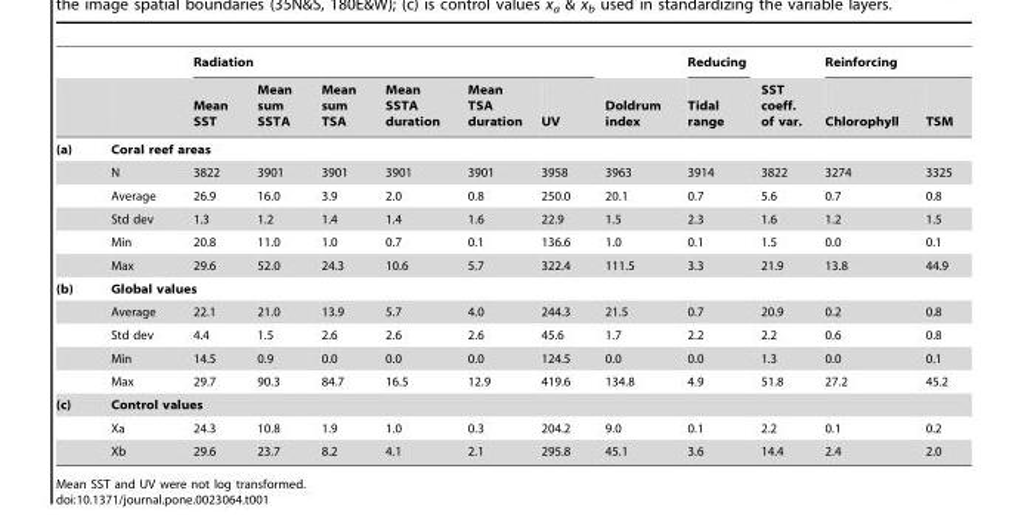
<table><thead><tr><td rowspan="2"></td><td rowspan="2"></td><td colspan="6">Radiation</td><td rowspan="2">Doldrum index</td><td rowspan="2">Reducing Tidal range</td><td rowspan="2">SST coeff. of var.</td><td colspan="2">Reinforcing</td></tr><tr><td>Mean SST</td><td>Mean sum SSTA</td><td>Mean sum TSA</td><td>Mean SSTA duration</td><td>Mean TSA duration</td><td>UV</td><td>Chlorophyll</td><td>TSM</td></tr></thead><tbody><tr><td rowspan="6">(a)</td><td colspan="12">Coral reef areas</td></tr><tr><td>N</td><td>3822</td><td>3901</td><td>3901</td><td>3901</td><td>3901</td><td>3958</td><td>3963</td><td>3914</td><td>3822</td><td>3274</td><td>3325</td></tr><tr><td>Average</td><td>26.9</td><td>16.0</td><td>3.9</td><td>2.0</td><td>0.8</td><td>250.0</td><td>20.1</td><td>0.7</td><td>5.6</td><td>0.7</td><td>0.8</td></tr><tr><td>Std dev</td><td>1.3</td><td>1.2</td><td>1.4</td><td>1.4</td><td>1.6</td><td>22.9</td><td>1.5</td><td>2.3</td><td>1.6</td><td>1.2</td><td>1.5</td></tr><tr><td>Min</td><td>20.8</td><td>11.0</td><td>1.0</td><td>0.7</td><td>0.1</td><td>136.6</td><td>1.0</td><td>0.1</td><td>1.5</td><td>0.0</td><td>0.1</td></tr><tr><td>Max</td><td>29.6</td><td>52.0</td><td>24.3</td><td>10.6</td><td>5.7</td><td>322.4</td><td>111.5</td><td>3.3</td><td>21.9</td><td>13.8</td><td>44.9</td></tr><tr><td rowspan="5">(b)</td><td colspan="12">Global values</td></tr><tr><td>Average</td><td>22.1</td><td>21.0</td><td>13.9</td><td>5.7</td><td>4.0</td><td>244.3</td><td>21.5</td><td>0.7</td><td>20.9</td><td>0.2</td><td>0.8</td></tr><tr><td>Std dev</td><td>4.4</td><td>1.5</td><td>2.6</td><td>2.6</td><td>2.6</td><td>45.6</td><td>1.7</td><td>2.2</td><td>2.2</td><td>0.6</td><td>0.8</td></tr><tr><td>Min</td><td>14.5</td><td>0.9</td><td>0.0</td><td>0.0</td><td>0.0</td><td>124.5</td><td>0.0</td><td>0.0</td><td>1.3</td><td>0.0</td><td>0.1</td></tr><tr><td>Max</td><td>29.7</td><td>90.3</td><td>84.7</td><td>16.5</td><td>12.9</td><td>419.6</td><td>134.8</td><td>4.9</td><td>51.8</td><td>27.2</td><td>45.2</td></tr><tr><td rowspan="3">(c)</td><td colspan="12">Control values</td></tr><tr><td>Xa</td><td>24.3</td><td>10.8</td><td>1.9</td><td>1.0</td><td>0.3</td><td>204.2</td><td>9.0</td><td>0.1</td><td>2.2</td><td>0.1</td><td>0.2</td></tr><tr><td>Xb</td><td>29.6</td><td>23.7</td><td>8.2</td><td>4.1</td><td>2.1</td><td>295.8</td><td>45.1</td><td>3.6</td><td>14.4</td><td>2.4</td><td>2.0</td></tr></tbody></table>